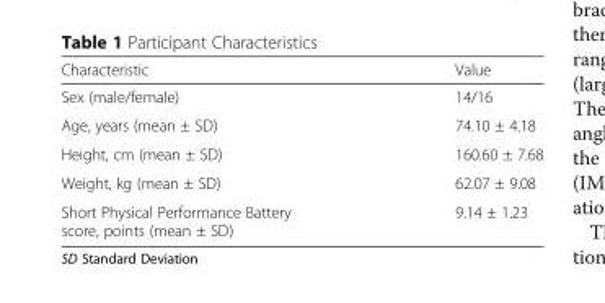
<table><thead><tr><td>Characteristic</td><td>Value</td></tr></thead><tbody><tr><td>Sex (male/female)</td><td>14/16</td></tr><tr><td>Age, years (mean ± SD)</td><td>74.10 ± 4.18</td></tr><tr><td>Height, cm (mean ± SD)</td><td>160.60 ± 7.68</td></tr><tr><td>Weight, kg (mean ± SD)</td><td>62.07 ± 9.08</td></tr><tr><td>Short Physical Performance Battery score, points (mean ± SD)</td><td>9.14 ± 1.23</td></tr></tbody></table>